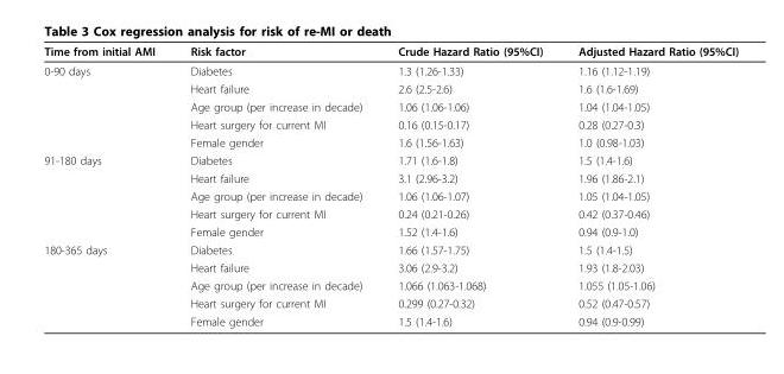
<table><thead><tr><td>Time from initial AMI</td><td>Risk factor</td><td>Crude Hazard Ratio (95%CI)</td><td>Adjusted Hazard Ratio (95%CI)</td></tr></thead><tbody><tr><td rowspan="5">0-90 days</td><td>Diabetes</td><td>1.3 (1.26-1.33)</td><td>1.16 (1.12-1.19)</td></tr><tr><td>Heart failure</td><td>2.6 (2.5-2.6)</td><td>1.6 (1.6-1.69)</td></tr><tr><td>Age group (per increase in decade)</td><td>1.06 (1.06-1.06)</td><td>1.04 (1.04-1.05)</td></tr><tr><td>Heart surgery for current MI</td><td>0.16 (0.15-0.17)</td><td>0.28 (0.27-0.3)</td></tr><tr><td>Female gender</td><td>1.6 (1.56-1.63)</td><td>1.0 (0.98-1.03)</td></tr><tr><td rowspan="5">91-180 days</td><td>Diabetes</td><td>1.71 (1.6-1.8)</td><td>1.5 (1.4-1.6)</td></tr><tr><td>Heart failure</td><td>3.1 (2.96-3.2)</td><td>1.96 (1.86-2.1)</td></tr><tr><td>Age group (per increase in decade)</td><td>1.06 (1.06-1.07)</td><td>1.05 (1.04-1.05)</td></tr><tr><td>Heart surgery for current MI</td><td>0.24 (0.21-0.26)</td><td>0.42 (0.37-0.46)</td></tr><tr><td>Female gender</td><td>1.52 (1.4-1.6)</td><td>0.94 (0.9-1.0)</td></tr><tr><td rowspan="5">180-365 days</td><td>Diabetes</td><td>1.66 (1.57-1.75)</td><td>1.5 (1.4-1.5)</td></tr><tr><td>Heart failure</td><td>3.06 (2.9-3.2)</td><td>1.93 (1.8-2.03)</td></tr><tr><td>Age group (per increase in decade)</td><td>1.066 (1.063-1.068)</td><td>1.055 (1.05-1.06)</td></tr><tr><td>Heart surgery for current MI</td><td>0.299 (0.27-0.32)</td><td>0.52 (0.47-0.57)</td></tr><tr><td>Female gender</td><td>1.5 (1.4-1.6)</td><td>0.94 (0.9-0.99)</td></tr></tbody></table>